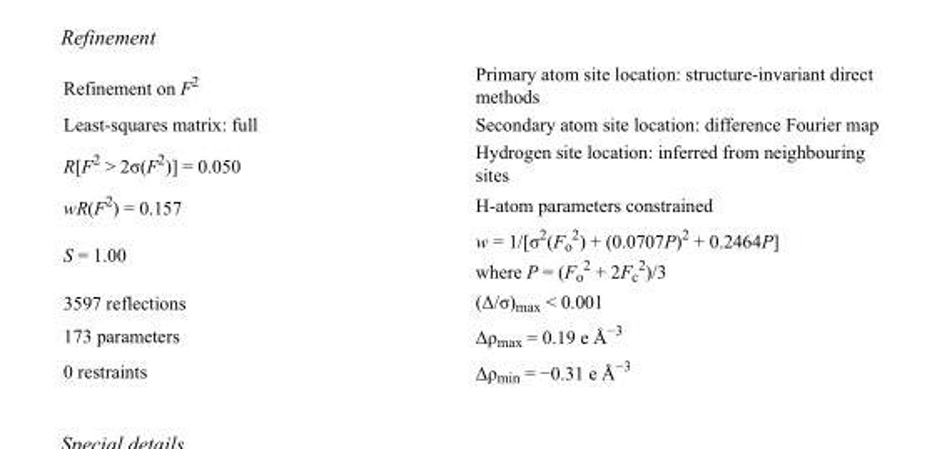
<table><tbody><tr><td>Refinement on F<sup>2</sup></td><td>Primary atom site location: structure-invariant direct methods</td></tr><tr><td>Least-squares matrix: full</td><td>Secondary atom site location: difference Fourier map</td></tr><tr><td>R[F<sup>2</sup> &gt; 2σ(F<sup>2</sup>)] = 0.050</td><td>Hydrogen site location: inferred from neighbouring sites</td></tr><tr><td>wR(F<sup>2</sup>) = 0.157</td><td>H-atom parameters constrained</td></tr><tr><td>S = 1.00</td><td>w = 1/[σ<sup>2</sup>(F<sub>o</sub> <sup>2</sup>) + (0.0707P)<sup>2</sup> + 0.2464P] where P = (F<sub>o</sub> <sup>2</sup> + 2F<sub>c</sub> <sup>2</sup>)/3</td></tr><tr><td>3597 reflections</td><td>(Δ/σ)<sub>max</sub> &lt; 0.001</td></tr><tr><td>173 parameters</td><td>Δρ<sub>max</sub> = 0.19 e Å<sup>−3</sup></td></tr><tr><td>0 restraints</td><td>Δρ<sub>min</sub> = −0.31 e Å<sup>−3</sup></td></tr></tbody></table>